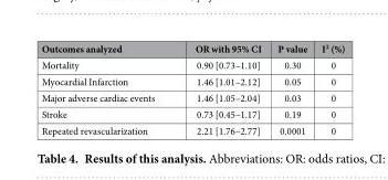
<table><thead><tr><td>Outcomes analyzed</td><td>OR with 95% CI</td><td>P value</td><td>I<sup>2</sup> (%)</td></tr></thead><tbody><tr><td>Mortality</td><td>0.90 [0.73–1.10]</td><td>0.30</td><td>0</td></tr><tr><td>Myocardial Infarction</td><td>1.46 [1.01–2.12]</td><td>0.05</td><td>0</td></tr><tr><td>Major adverse cardiac events</td><td>1.46 [1.05–2.04]</td><td>0.03</td><td>0</td></tr><tr><td>Stroke</td><td>0.73 [0.45–1.17]</td><td>0.19</td><td>0</td></tr><tr><td>Repeated revascularization</td><td>2.21 [1.76–2.77]</td><td>0.0001</td><td>0</td></tr></tbody></table>